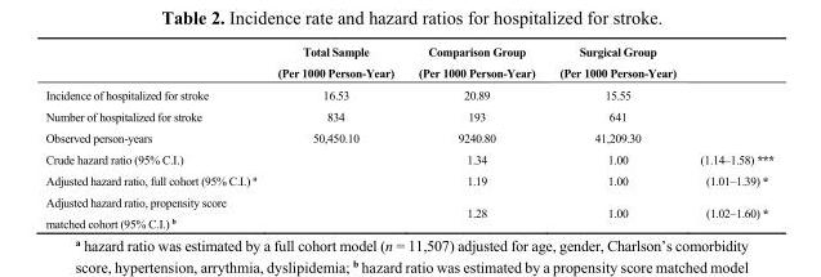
<table><thead><tr><td></td><td>Total Sample (Per 1000 Person-Year)</td><td>Comparison Group (Per 1000 Person-Year)</td><td>Surgical Group (Per 1000 Person-Year)</td><td></td></tr></thead><tbody><tr><td>Incidence of hospitalized for stroke</td><td>16.53</td><td>20.89</td><td>15.55</td><td></td></tr><tr><td>Number of hospitalized for stroke</td><td>834</td><td>193</td><td>641</td><td></td></tr><tr><td>Observed person-years</td><td>50,450.10</td><td>9240.80</td><td>41,209.30</td><td></td></tr><tr><td>Crude hazard ratio (95% C.I.)</td><td></td><td>1.34</td><td>1.00</td><td>(1.14–1.58) ***</td></tr><tr><td>Adjusted hazard ratio, full cohort (95% C.I.) <sup>a</sup></td><td></td><td>1.19</td><td>1.00</td><td>(1.01–1.39) *</td></tr><tr><td>Adjusted hazard ratio, propensity score matched cohort (95% C.I.) <sup>b</sup></td><td></td><td>1.28</td><td>1.00</td><td>(1.02–1.60) *</td></tr></tbody></table>